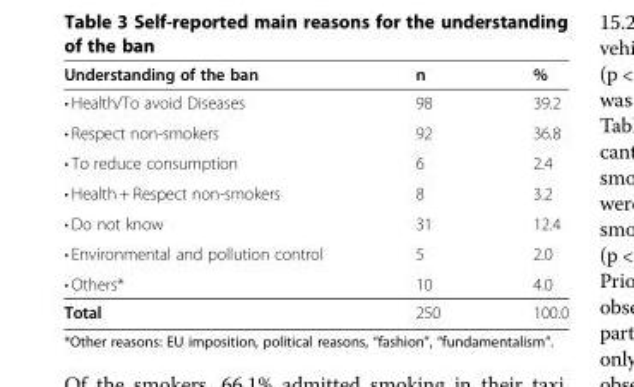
<table><thead><tr><td>Understanding of the ban</td><td>n</td><td>%</td></tr></thead><tbody><tr><td>• Health/To avoid Diseases</td><td>98</td><td>39.2</td></tr><tr><td>• Respect non-smokers</td><td>92</td><td>36.8</td></tr><tr><td>• To reduce consumption</td><td>6</td><td>2.4</td></tr><tr><td>• Health + Respect non-smokers</td><td>8</td><td>3.2</td></tr><tr><td>• Do not know</td><td>31</td><td>12.4</td></tr><tr><td>• Environmental and pollution control</td><td>5</td><td>2.0</td></tr><tr><td>• Others*</td><td>10</td><td>4.0</td></tr><tr><td>Total</td><td>250</td><td>100.0</td></tr></tbody></table>